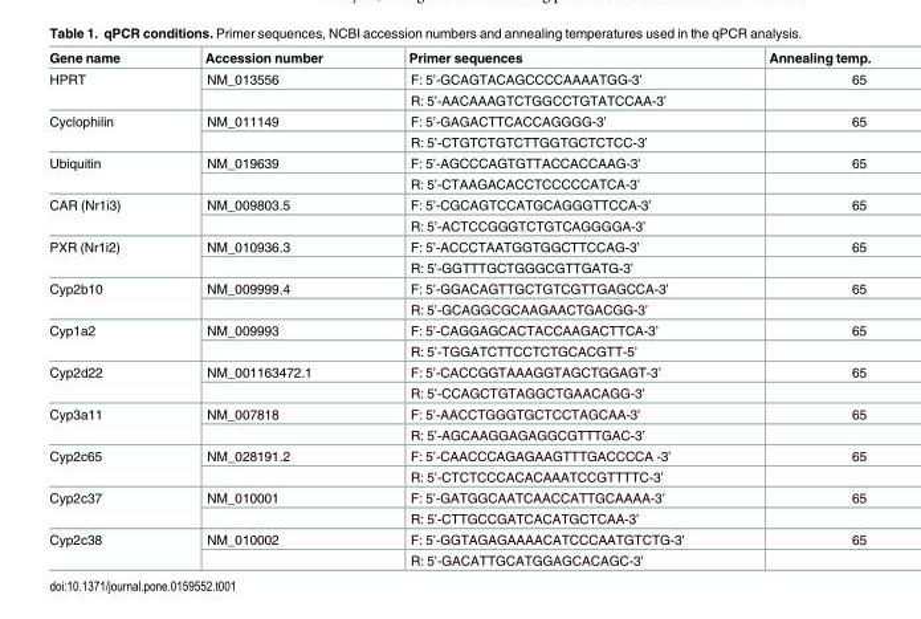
<table><thead><tr><td>Gene name</td><td>Accession number</td><td>Primer sequences</td><td>Annealing temp.</td></tr></thead><tbody><tr><td rowspan="2">HPRT</td><td>NM_013556</td><td>F: 5’-GCAGTACAGCCCCAAAATGG-3’</td><td>65</td></tr><tr><td></td><td>R: 5’-AACAAAGTCTGGCCTGTATCCAA-3’</td><td></td></tr><tr><td rowspan="2">Cyclophilin</td><td>NM_011149</td><td>F: 5’-GAGACTTCACCAGGGG-3’</td><td>65</td></tr><tr><td></td><td>R: 5’-CTGTCTGTCTTGGTGCTCTCC-3’</td><td></td></tr><tr><td rowspan="2">Ubiquitin</td><td>NM_019639</td><td>F: 5’-AGCCCAGTGTTACCACCAAG-3’</td><td>65</td></tr><tr><td></td><td>R: 5’-CTAAGACACCTCCCCCATCA-3’</td><td></td></tr><tr><td rowspan="2">CAR (Nr1i3)</td><td>NM_009803.5</td><td>F: 5’-CGCAGTCCATGCAGGGTTCCA-3’</td><td>65</td></tr><tr><td></td><td>R: 5’-ACTCCGGGTCTGTCAGGGGA-3’</td><td></td></tr><tr><td rowspan="2">PXR (Nr1i2)</td><td>NM_010936.3</td><td>F: 5’-ACCCTAATGGTGGCTTCCAG-3’</td><td>65</td></tr><tr><td></td><td>R: 5’-GGTTTGCTGGGCGTTGATG-3’</td><td></td></tr><tr><td rowspan="2">Cyp2b10</td><td>NM_009999.4</td><td>F: 5’-GGACAGTTGCTGTCGTTGAGCCA-3’</td><td>65</td></tr><tr><td></td><td>R: 5’-GCAGGCGCAAGAACTGACGG-3’</td><td></td></tr><tr><td rowspan="2">Cyp1a2</td><td>NM_009993</td><td>F: 5’-CAGGAGCACTACCAAGACTTCA-3’</td><td>65</td></tr><tr><td></td><td>R: 5’-TGGATCTTCCTCTGCACGTT-5’</td><td></td></tr><tr><td rowspan="2">Cyp2d22</td><td>NM_001163472.1</td><td>F: 5’-CACCGGTAAAGGTAGCTGGAGT-3’</td><td>65</td></tr><tr><td></td><td>R: 5’-CCAGCTGTAGGCTGAACAGG-3’</td><td></td></tr><tr><td rowspan="2">Cyp3a11</td><td>NM_007818</td><td>F: 5’-AACCTGGGTGCTCCTAGCAA-3’</td><td>65</td></tr><tr><td></td><td>R: 5’-AGCAAGGAGAGGCGTTTGAC-3’</td><td></td></tr><tr><td rowspan="2">Cyp2c65</td><td>NM_028191.2</td><td>F: 5’-CAACCCAGAGAAGTTTGACCCCA -3’</td><td>65</td></tr><tr><td></td><td>R: 5’-CTCTCCCACACAAATCCGTTTTC-3’</td><td></td></tr><tr><td rowspan="2">Cyp2c37</td><td>NM_010001</td><td>F: 5’-GATGGCAATCAACCATTGCAAAA-3’</td><td>65</td></tr><tr><td></td><td>R: 5’-CTTGCCGATCACATGCTCAA-3’</td><td></td></tr><tr><td rowspan="2">Cyp2c38</td><td>NM_010002</td><td>F: 5’-GGTAGAGAAAACATCCCAATGTCTG-3’</td><td>65</td></tr><tr><td></td><td>R: 5’-GACATTGCATGGAGCACAGC-3’</td><td></td></tr></tbody></table>